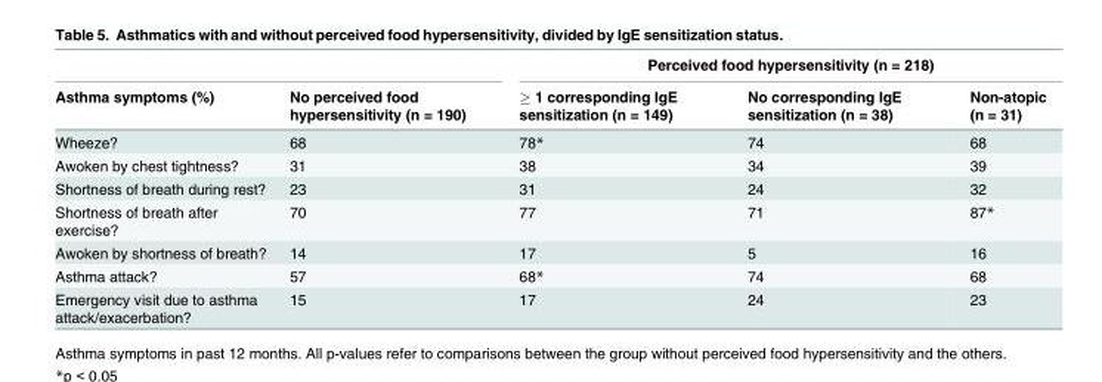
<table><thead><tr><td rowspan="2">Asthma symptoms (%)</td><td rowspan="2">No perceived food hypersensitivity (n = 190)</td><td colspan="3">Perceived food hypersensitivity (n = 218)</td></tr><tr><td>≥ 1 corresponding IgE sensitization (n = 149)</td><td>No corresponding IgE sensitization (n = 38)</td><td>Non-atopic (n = 31)</td></tr></thead><tbody><tr><td>Wheeze?</td><td>68</td><td>78*</td><td>74</td><td>68</td></tr><tr><td>Awoken by chest tightness?</td><td>31</td><td>38</td><td>34</td><td>39</td></tr><tr><td>Shortness of breath during rest?</td><td>23</td><td>31</td><td>24</td><td>32</td></tr><tr><td>Shortness of breath after exercise?</td><td>70</td><td>77</td><td>71</td><td>87*</td></tr><tr><td>Awoken by shortness of breath?</td><td>14</td><td>17</td><td>5</td><td>16</td></tr><tr><td>Asthma attack?</td><td>57</td><td>68*</td><td>74</td><td>68</td></tr><tr><td>Emergency visit due to asthma attack/exacerbation?</td><td>15</td><td>17</td><td>24</td><td>23</td></tr></tbody></table>